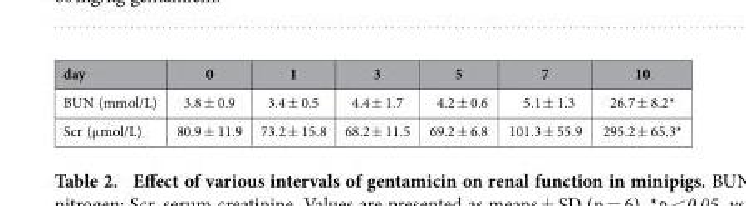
<table><thead><tr><td>day</td><td>0</td><td>1</td><td>3</td><td>5</td><td>7</td><td>10</td></tr></thead><tbody><tr><td>BUN (mmol/L)</td><td>3.8 ± 0.9</td><td>3.4 ± 0.5</td><td>4.4 ± 1.7</td><td>4.2 ± 0.6</td><td>5.1 ± 1.3</td><td>26.7 ± 8.2*</td></tr><tr><td>Scr (μ mol/L)</td><td>80.9 ± 11.9</td><td>73.2 ± 15.8</td><td>68.2 ± 11.5</td><td>69.2 ± 6.8</td><td>101.3 ± 55.9</td><td>295.2 ± 65.3*</td></tr></tbody></table>